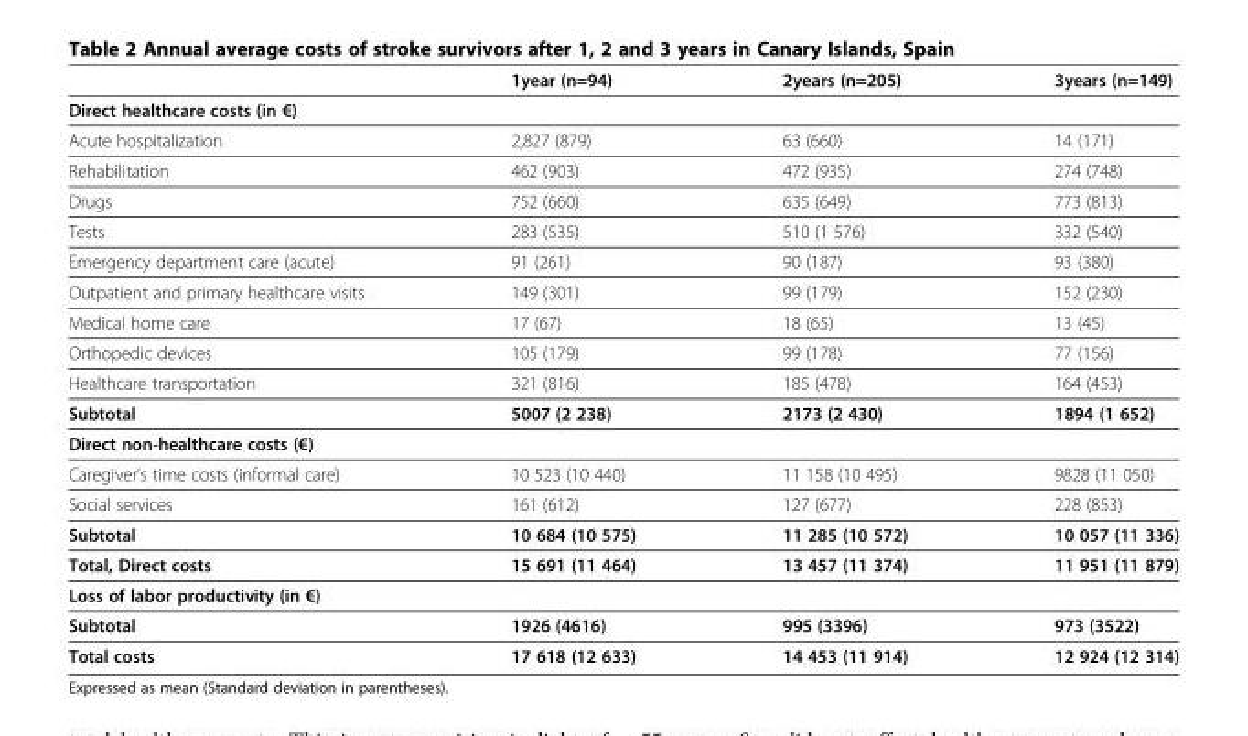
<table><thead><tr><td></td><td>1year (n=94)</td><td>2years (n=205)</td><td>3years (n=149)</td></tr></thead><tbody><tr><td colspan="4">Direct healthcare costs (in €)</td></tr><tr><td>Acute hospitalization</td><td>2,827 (879)</td><td>63 (660)</td><td>14 (171)</td></tr><tr><td>Rehabilitation</td><td>462 (903)</td><td>472 (935)</td><td>274 (748)</td></tr><tr><td>Drugs</td><td>752 (660)</td><td>635 (649)</td><td>773 (813)</td></tr><tr><td>Tests</td><td>283 (535)</td><td>510 (1 576)</td><td>332 (540)</td></tr><tr><td>Emergency department care (acute)</td><td>91 (261)</td><td>90 (187)</td><td>93 (380)</td></tr><tr><td>Outpatient and primary healthcare visits</td><td>149 (301)</td><td>99 (179)</td><td>152 (230)</td></tr><tr><td>Medical home care</td><td>17 (67)</td><td>18 (65)</td><td>13 (45)</td></tr><tr><td>Orthopedic devices</td><td>105 (179)</td><td>99 (178)</td><td>77 (156)</td></tr><tr><td>Healthcare transportation</td><td>321 (816)</td><td>185 (478)</td><td>164 (453)</td></tr><tr><td>Subtotal</td><td>5007 (2 238)</td><td>2173 (2 430)</td><td>1894 (1 652)</td></tr><tr><td colspan="4">Direct non-healthcare costs (€)</td></tr><tr><td>Caregiver’s time costs (informal care)</td><td>10 523 (10 440)</td><td>11 158 (10 495)</td><td>9828 (11 050)</td></tr><tr><td>Social services</td><td>161 (612)</td><td>127 (677)</td><td>228 (853)</td></tr><tr><td>Subtotal</td><td>10 684 (10 575)</td><td>11 285 (10 572)</td><td>10 057 (11 336)</td></tr><tr><td>Total, Direct costs</td><td>15 691 (11 464)</td><td>13 457 (11 374)</td><td>11 951 (11 879)</td></tr><tr><td colspan="4">Loss of labor productivity (in €)</td></tr><tr><td>Subtotal</td><td>1926 (4616)</td><td>995 (3396)</td><td>973 (3522)</td></tr><tr><td>Total costs</td><td>17 618 (12 633)</td><td>14 453 (11 914)</td><td>12 924 (12 314)</td></tr></tbody></table>